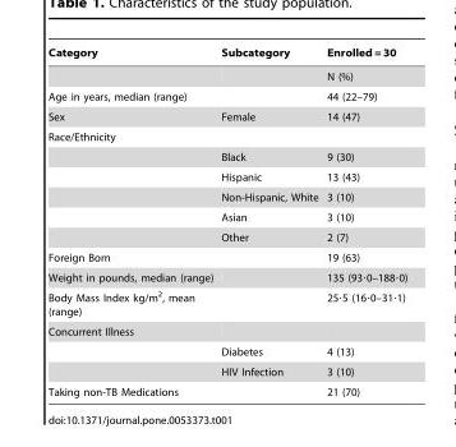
<table><thead><tr><td>Category</td><td>Subcategory</td><td>Enrolled = 30</td></tr></thead><tbody><tr><td></td><td></td><td>N (%)</td></tr><tr><td>Age in years, median (range)</td><td></td><td>44 (22–79)</td></tr><tr><td>Sex</td><td>Female</td><td>14 (47)</td></tr><tr><td colspan="3">Race/Ethnicity</td></tr><tr><td></td><td>Black</td><td>9 (30)</td></tr><tr><td></td><td>Hispanic</td><td>13 (43)</td></tr><tr><td></td><td>Non-Hispanic, White</td><td>3 (10)</td></tr><tr><td></td><td>Asian</td><td>3 (10)</td></tr><tr><td></td><td>Other</td><td>2 (7)</td></tr><tr><td>Foreign Born</td><td></td><td>19 (63)</td></tr><tr><td>Weight in pounds, median (range)</td><td></td><td>135 (93·0–188·0)</td></tr><tr><td>Body Mass Index kg/m<sup>2</sup>, mean (range)</td><td></td><td>25·5 (16·0–31·1)</td></tr><tr><td colspan="3">Concurrent Illness</td></tr><tr><td></td><td>Diabetes</td><td>4 (13)</td></tr><tr><td></td><td>HIV Infection</td><td>3 (10)</td></tr><tr><td>Taking non-TB Medications</td><td></td><td>21 (70)</td></tr></tbody></table>